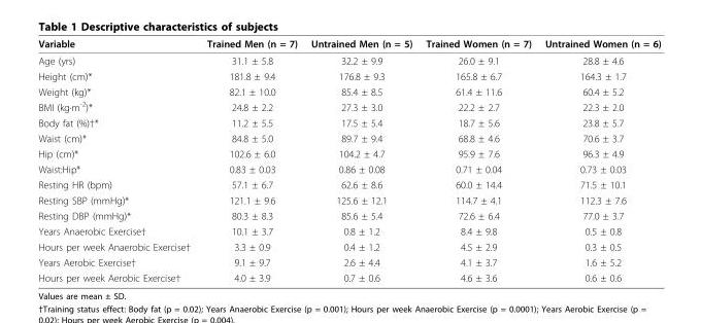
<table><thead><tr><td>Variable</td><td>Trained Men (n = 7)</td><td>Untrained Men (n = 5)</td><td>Trained Women (n = 7)</td><td>Untrained Women (n = 6)</td></tr></thead><tbody><tr><td>Age (yrs)</td><td>31.1 ± 5.8</td><td>32.2 ± 9.9</td><td>26.0 ± 9.1</td><td>28.8 ± 4.6</td></tr><tr><td>Height (cm)*</td><td>181.8 ± 9.4</td><td>176.8 ± 9.3</td><td>165.8 ± 6.7</td><td>164.3 ± 1.7</td></tr><tr><td>Weight (kg)*</td><td>82.1 ± 10.0</td><td>85.4 ± 8.5</td><td>61.4 ± 11.6</td><td>60.4 ± 5.2</td></tr><tr><td>BMI (kg·m<sup>-2</sup>)*</td><td>24.8 ± 2.2</td><td>27.3 ± 3.0</td><td>22.2 ± 2.7</td><td>22.3 ± 2.0</td></tr><tr><td>Body fat (%)†*</td><td>11.2 ± 5.5</td><td>17.5 ± 5.4</td><td>18.7 ± 5.6</td><td>23.8 ± 5.7</td></tr><tr><td>Waist (cm)*</td><td>84.8 ± 5.0</td><td>89.7 ± 9.4</td><td>68.8 ± 4.6</td><td>70.6 ± 3.7</td></tr><tr><td>Hip (cm)*</td><td>102.6 ± 6.0</td><td>104.2 ± 4.7</td><td>95.9 ± 7.6</td><td>96.3 ± 4.9</td></tr><tr><td>Waist:Hip*</td><td>0.83 ± 0.03</td><td>0.86 ± 0.08</td><td>0.71 ± 0.04</td><td>0.73 ± 0.03</td></tr><tr><td>Resting HR (bpm)</td><td>57.1 ± 6.7</td><td>62.6 ± 8.6</td><td>60.0 ± 14.4</td><td>71.5 ± 10.1</td></tr><tr><td>Resting SBP (mmHg)*</td><td>121.1 ± 9.6</td><td>125.6 ± 12.1</td><td>114.7 ± 4.1</td><td>112.3 ± 7.6</td></tr><tr><td>Resting DBP (mmHg)*</td><td>80.3 ± 8.3</td><td>85.6 ± 5.4</td><td>72.6 ± 6.4</td><td>77.0 ± 3.7</td></tr><tr><td>Years Anaerobic Exercise†</td><td>10.1 ± 3.7</td><td>0.8 ± 1.2</td><td>8.4 ± 9.8</td><td>0.5 ± 0.8</td></tr><tr><td>Hours per week Anaerobic Exercise†</td><td>3.3 ± 0.9</td><td>0.4 ± 1.2</td><td>4.5 ± 2.9</td><td>0.3 ± 0.5</td></tr><tr><td>Years Aerobic Exercise†</td><td>9.1 ± 9.7</td><td>2.6 ± 4.4</td><td>4.1 ± 3.7</td><td>1.6 ± 5.2</td></tr><tr><td>Hours per week Aerobic Exercise†</td><td>4.0 ± 3.9</td><td>0.7 ± 0.6</td><td>4.6 ± 3.6</td><td>0.6 ± 0.6</td></tr></tbody></table>